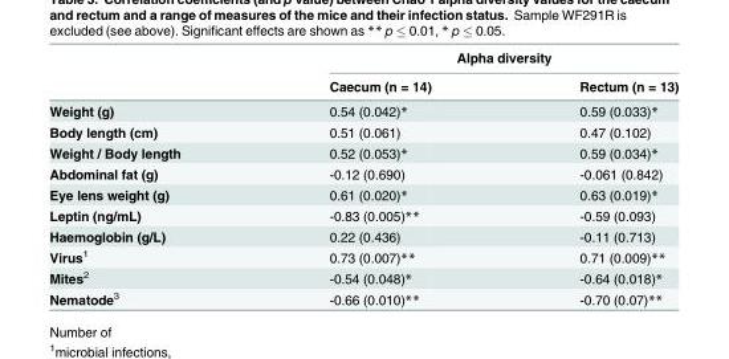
<table><thead><tr><td rowspan="2"></td><td colspan="2">Alpha diversity</td></tr><tr><td>Caecum (n = 14)</td><td>Rectum (n = 13)</td></tr></thead><tbody><tr><td>Weight (g)</td><td>0.54 (0.042)*</td><td>0.59 (0.033)*</td></tr><tr><td>Body length (cm)</td><td>0.51 (0.061)</td><td>0.47 (0.102)</td></tr><tr><td>Weight / Body length</td><td>0.52 (0.053)*</td><td>0.59 (0.034)*</td></tr><tr><td>Abdominal fat (g)</td><td>-0.12 (0.690)</td><td>-0.061 (0.842)</td></tr><tr><td>Eye lens weight (g)</td><td>0.61 (0.020)*</td><td>0.63 (0.019)*</td></tr><tr><td>Leptin (ng/mL)</td><td>-0.83 (0.005)**</td><td>-0.59 (0.093)</td></tr><tr><td>Haemoglobin (g/L)</td><td>0.22 (0.436)</td><td>-0.11 (0.713)</td></tr><tr><td>Virus<sup>1</sup></td><td>0.73 (0.007)**</td><td>0.71 (0.009)**</td></tr><tr><td>Mites<sup>2</sup></td><td>-0.54 (0.048)*</td><td>-0.64 (0.018)*</td></tr><tr><td>Nematode<sup>3</sup></td><td>-0.66 (0.010)**</td><td>-0.70 (0.07)**</td></tr></tbody></table>